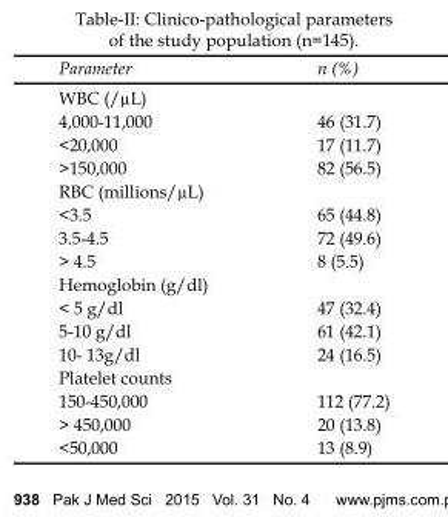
<table><thead><tr><td>Parameter</td><td>n (%)</td></tr></thead><tbody><tr><td colspan="2">WBC (/µL)</td></tr><tr><td>4,000-11,000</td><td>46 (31.7)</td></tr><tr><td>&lt;20,000</td><td>17 (11.7)</td></tr><tr><td>&gt;150,000</td><td>82 (56.5)</td></tr><tr><td colspan="2">RBC (millions/µL)</td></tr><tr><td>&lt;3.5</td><td>65 (44.8)</td></tr><tr><td>3.5-4.5</td><td>72 (49.6)</td></tr><tr><td>&gt; 4.5</td><td>8 (5.5)</td></tr><tr><td colspan="2">Hemoglobin (g/dl)</td></tr><tr><td>&lt; 5 g/dl</td><td>47 (32.4)</td></tr><tr><td>5-10 g/dl</td><td>61 (42.1)</td></tr><tr><td>10- 13g/dl</td><td>24 (16.5)</td></tr><tr><td colspan="2">Platelet counts</td></tr><tr><td>150-450,000</td><td>112 (77.2)</td></tr><tr><td>&gt; 450,000</td><td>20 (13.8)</td></tr><tr><td>&lt;50,000</td><td>13 (8.9)</td></tr></tbody></table>